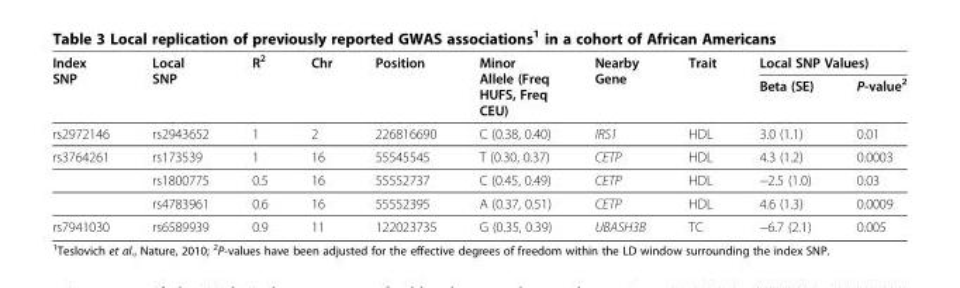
<table><thead><tr><td rowspan="2">Index SNP</td><td rowspan="2">Local SNP</td><td rowspan="2">R<sup>2</sup></td><td rowspan="2">Chr</td><td rowspan="2">Position</td><td rowspan="2">Minor Allele (Freq HUFS, Freq CEU)</td><td rowspan="2">Nearby Gene</td><td rowspan="2">Trait</td><td colspan="2">Local SNP Values)</td></tr><tr><td>Beta (SE)</td><td>P-value<sup>2</sup></td></tr></thead><tbody><tr><td>rs2972146</td><td>rs2943652</td><td>1</td><td>2</td><td>226816690</td><td>C (0.38, 0.40)</td><td>IRS1</td><td>HDL</td><td>3.0 (1.1)</td><td>0.01</td></tr><tr><td rowspan="3">rs3764261</td><td>rs173539</td><td>1</td><td>16</td><td>55545545</td><td>T (0.30, 0.37)</td><td>CETP</td><td>HDL</td><td>4.3 (1.2)</td><td>0.0003</td></tr><tr><td>rs1800775</td><td>0.5</td><td>16</td><td>55552737</td><td>C (0.45, 0.49)</td><td>CETP</td><td>HDL</td><td>−2.5 (1.0)</td><td>0.03</td></tr><tr><td>rs4783961</td><td>0.6</td><td>16</td><td>55552395</td><td>A (0.37, 0.51)</td><td>CETP</td><td>HDL</td><td>4.6 (1.3)</td><td>0.0009</td></tr><tr><td>rs7941030</td><td>rs6589939</td><td>0.9</td><td>11</td><td>122023735</td><td>G (0.35, 0.39)</td><td>UBASH3B</td><td>TC</td><td>−6.7 (2.1)</td><td>0.005</td></tr></tbody></table>